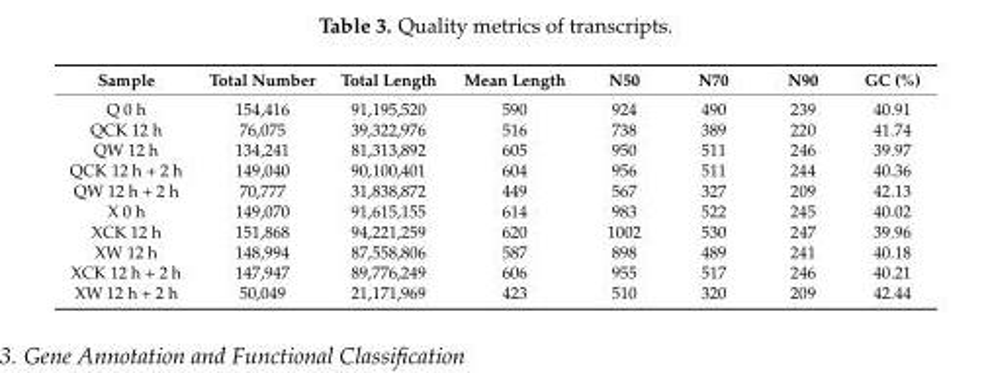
<table><thead><tr><td>Sample</td><td>Total Number</td><td>Total Length</td><td>Mean Length</td><td>N50</td><td>N70</td><td>N90</td><td>GC (%)</td></tr></thead><tbody><tr><td>Q 0 h</td><td>154,416</td><td>91,195,520</td><td>590</td><td>924</td><td>490</td><td>239</td><td>40.91</td></tr><tr><td>QCK 12 h</td><td>76,075</td><td>39,322,976</td><td>516</td><td>738</td><td>389</td><td>220</td><td>41.74</td></tr><tr><td>QW 12 h</td><td>134,241</td><td>81,313,892</td><td>605</td><td>950</td><td>511</td><td>246</td><td>39.97</td></tr><tr><td>QCK 12 h + 2 h</td><td>149,040</td><td>90,100,401</td><td>604</td><td>956</td><td>511</td><td>244</td><td>40.36</td></tr><tr><td>QW 12 h + 2 h</td><td>70,777</td><td>31,838,872</td><td>449</td><td>567</td><td>327</td><td>209</td><td>42.13</td></tr><tr><td>X 0 h</td><td>149,070</td><td>91,615,155</td><td>614</td><td>983</td><td>522</td><td>245</td><td>40.02</td></tr><tr><td>XCK 12 h</td><td>151,868</td><td>94,221,259</td><td>620</td><td>1002</td><td>530</td><td>247</td><td>39.96</td></tr><tr><td>XW 12 h</td><td>148,994</td><td>87,558,806</td><td>587</td><td>898</td><td>489</td><td>241</td><td>40.18</td></tr><tr><td>XCK 12 h + 2 h</td><td>147,947</td><td>89,776,249</td><td>606</td><td>955</td><td>517</td><td>246</td><td>40.21</td></tr><tr><td>XW 12 h + 2 h</td><td>50,049</td><td>21,171,969</td><td>423</td><td>510</td><td>320</td><td>209</td><td>42.44</td></tr></tbody></table>